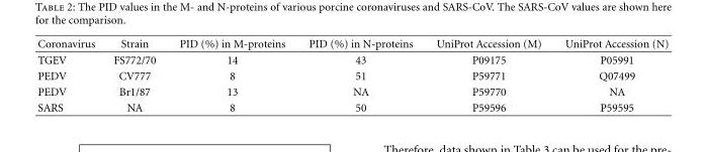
<table><thead><tr><td>Coronavirus</td><td>Strain</td><td>PID (%) in M-proteins</td><td>PID (%) in N-proteins</td><td>UniProt Accession (M)</td><td>UniProt Accession (N)</td></tr></thead><tbody><tr><td>TGEV</td><td>FS772/70</td><td>14</td><td>43</td><td>P09175</td><td>P05991</td></tr><tr><td>PEDV</td><td>CV777</td><td>8</td><td>51</td><td>P59771</td><td>Q07499</td></tr><tr><td>PEDV</td><td>Br1/87</td><td>13</td><td>NA</td><td>P59770</td><td>NA</td></tr><tr><td>SARS</td><td>NA</td><td>8</td><td>50</td><td>P59596</td><td>P59595</td></tr></tbody></table>